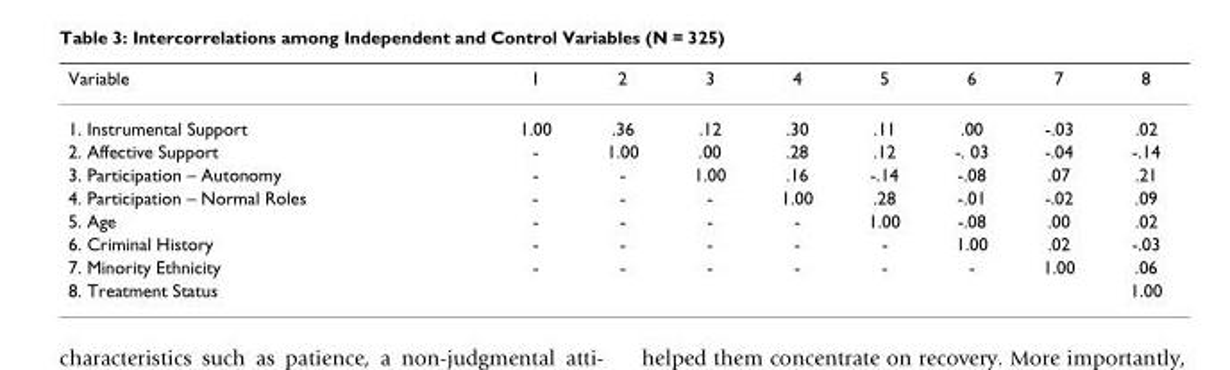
<table><thead><tr><td>Variable</td><td>1</td><td>2</td><td>3</td><td>4</td><td>5</td><td>6</td><td>7</td><td>8</td></tr></thead><tbody><tr><td>1. Instrumental Support</td><td>1.00</td><td>.36</td><td>.12</td><td>.30</td><td>.11</td><td>.00</td><td>-.03</td><td>.02</td></tr><tr><td>2. Affective Support</td><td>-</td><td>1.00</td><td>.00</td><td>.28</td><td>.12</td><td>-. 03</td><td>-.04</td><td>-.14</td></tr><tr><td>3. Participation – Autonomy</td><td>-</td><td>-</td><td>1.00</td><td>.16</td><td>-.14</td><td>-.08</td><td>.07</td><td>.21</td></tr><tr><td>4. Participation – Normal Roles</td><td>-</td><td>-</td><td>-</td><td>1.00</td><td>.28</td><td>-.01</td><td>-.02</td><td>.09</td></tr><tr><td>5. Age</td><td>-</td><td>-</td><td>-</td><td>-</td><td>1.00</td><td>-.08</td><td>.00</td><td>.02</td></tr><tr><td>6. Criminal History</td><td>-</td><td>-</td><td>-</td><td>-</td><td>-</td><td>1.00</td><td>.02</td><td>-.03</td></tr><tr><td>7. Minority Ethnicity</td><td>-</td><td>-</td><td>-</td><td>-</td><td>-</td><td>-</td><td>1.00</td><td>.06</td></tr><tr><td>8. Treatment Status</td><td></td><td></td><td></td><td></td><td></td><td></td><td></td><td>1.00</td></tr></tbody></table>